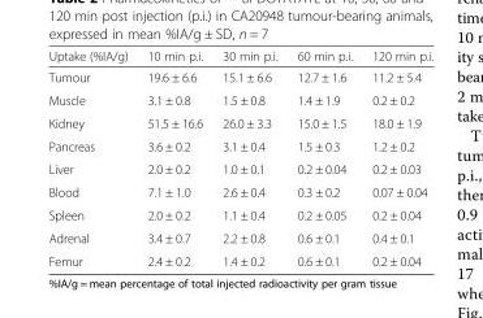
<table><thead><tr><td>Uptake (%IA/g)</td><td>10 min p.i.</td><td>30 min p.i.</td><td>60 min p.i.</td><td>120 min p.i.</td></tr></thead><tbody><tr><td>Tumour</td><td>19.6 ± 6.6</td><td>15.1 ± 6.6</td><td>12.7 ± 1.6</td><td>11.2 ± 5.4</td></tr><tr><td>Muscle</td><td>3.1 ± 0.8</td><td>1.5 ± 0.8</td><td>1.4 ± 1.9</td><td>0.2 ± 0.2</td></tr><tr><td>Kidney</td><td>51.5 ± 16.6</td><td>26.0 ± 3.3</td><td>15.0 ± 1.5</td><td>18.0 ± 1.9</td></tr><tr><td>Pancreas</td><td>3.6 ± 0.2</td><td>3.1 ± 0.4</td><td>1.5 ± 0.3</td><td>1.2 ± 0.2</td></tr><tr><td>Liver</td><td>2.0 ± 0.2</td><td>1.0 ± 0.1</td><td>0.2 ± 0.04</td><td>0.2 ± 0.03</td></tr><tr><td>Blood</td><td>7.1 ± 1.0</td><td>2.6 ± 0.4</td><td>0.3 ± 0.2</td><td>0.07 ± 0.04</td></tr><tr><td>Spleen</td><td>2.0 ± 0.2</td><td>1.1 ± 0.4</td><td>0.2 ± 0.05</td><td>0.2 ± 0.04</td></tr><tr><td>Adrenal</td><td>3.4 ± 0.7</td><td>2.2 ± 0.8</td><td>0.6 ± 0.1</td><td>0.4 ± 0.1</td></tr><tr><td>Femur</td><td>2.4 ± 0.2</td><td>1.4 ± 0.2</td><td>0.6 ± 0.1</td><td>0.2 ± 0.04</td></tr></tbody></table>